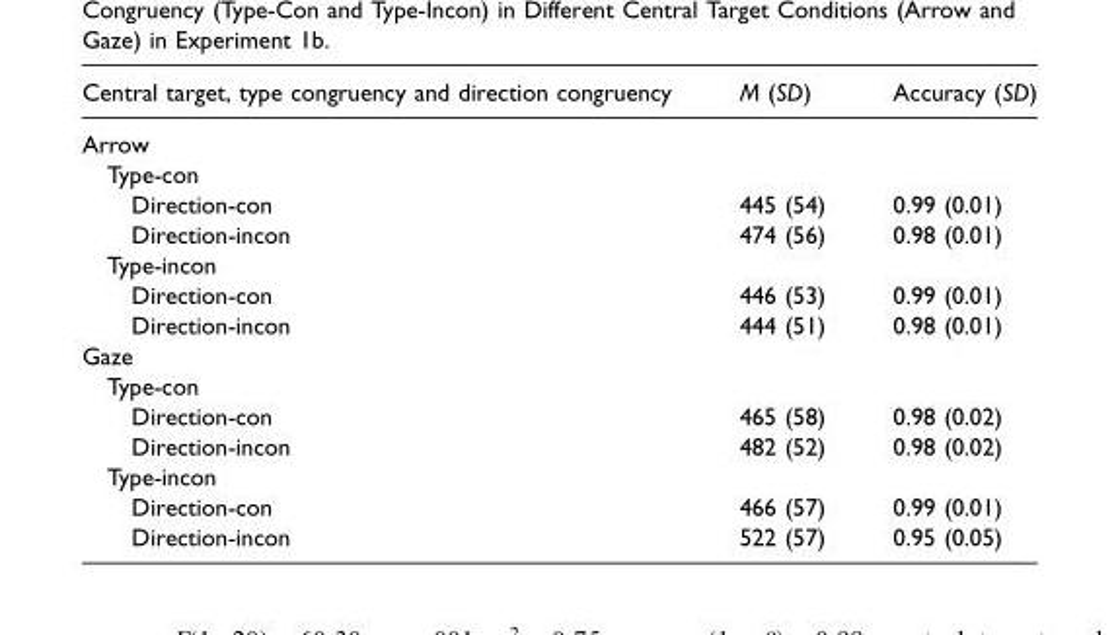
<table><thead><tr><td>Central target, type congruency and direction congruency</td><td>M (SD)</td><td>Accuracy (SD)</td></tr></thead><tbody><tr><td colspan="3">Arrow</td></tr><tr><td colspan="3">Type-con</td></tr><tr><td>Direction-con</td><td>445 (54)</td><td>0.99 (0.01)</td></tr><tr><td>Direction-incon</td><td>474 (56)</td><td>0.98 (0.01)</td></tr><tr><td colspan="3">Type-incon</td></tr><tr><td>Direction-con</td><td>446 (53)</td><td>0.99 (0.01)</td></tr><tr><td>Direction-incon</td><td>444 (51)</td><td>0.98 (0.01)</td></tr><tr><td colspan="3">Gaze</td></tr><tr><td colspan="3">Type-con</td></tr><tr><td>Direction-con</td><td>465 (58)</td><td>0.98 (0.02)</td></tr><tr><td>Direction-incon</td><td>482 (52)</td><td>0.98 (0.02)</td></tr><tr><td colspan="3">Type-incon</td></tr><tr><td>Direction-con</td><td>466 (57)</td><td>0.99 (0.01)</td></tr><tr><td>Direction-incon</td><td>522 (57)</td><td>0.95 (0.05)</td></tr></tbody></table>